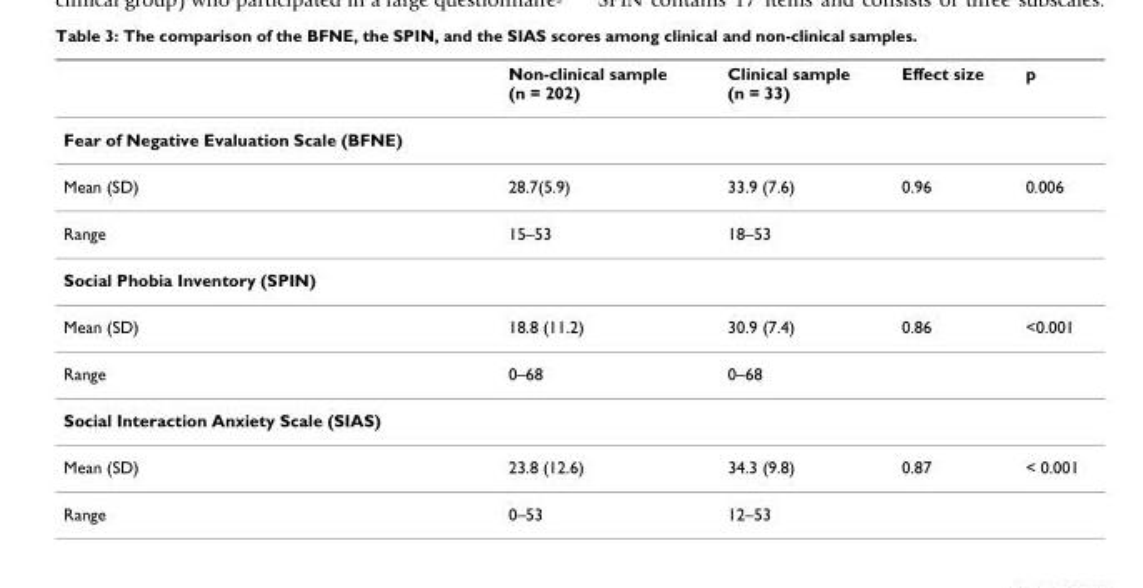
<table><thead><tr><td></td><td>Non-clinical sample (n = 202)</td><td>Clinical sample (n = 33)</td><td>Effect size</td><td>p</td></tr></thead><tbody><tr><td colspan="5">Fear of Negative Evaluation Scale (BFNE)</td></tr><tr><td>Mean (SD)</td><td>28.7(5.9)</td><td>33.9 (7.6)</td><td>0.96</td><td>0.006</td></tr><tr><td>Range</td><td>15–53</td><td>18–53</td><td></td><td></td></tr><tr><td colspan="5">Social Phobia Inventory (SPIN)</td></tr><tr><td>Mean (SD)</td><td>18.8 (11.2)</td><td>30.9 (7.4)</td><td>0.86</td><td>&lt;0.001</td></tr><tr><td>Range</td><td>0–68</td><td>0–68</td><td></td><td></td></tr><tr><td colspan="5">Social Interaction Anxiety Scale (SIAS)</td></tr><tr><td>Mean (SD)</td><td>23.8 (12.6)</td><td>34.3 (9.8)</td><td>0.87</td><td>&lt; 0.001</td></tr><tr><td>Range</td><td>0–53</td><td>12–53</td><td></td><td></td></tr></tbody></table>